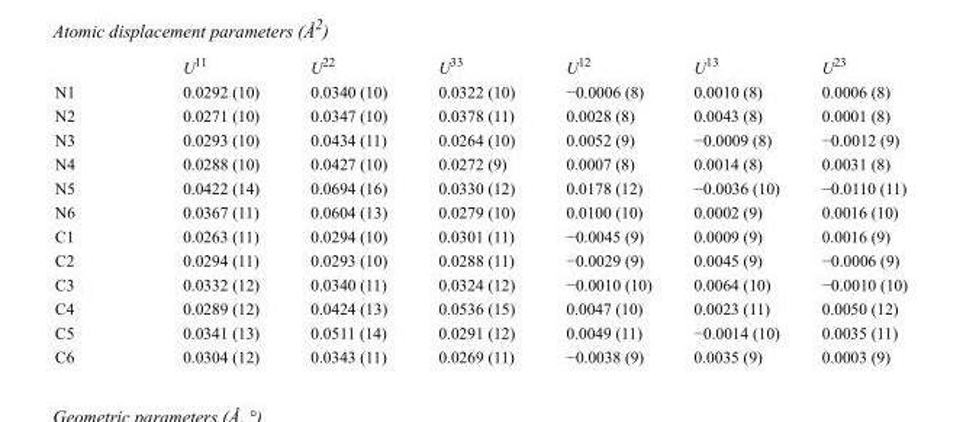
<table><thead><tr><td></td><td>U<sup>11</sup></td><td>U<sup>22</sup></td><td>U<sup>33</sup></td><td>U<sup>12</sup></td><td>U<sup>13</sup></td><td>U<sup>23</sup></td></tr></thead><tbody><tr><td>N1</td><td>0.0292 (10)</td><td>0.0340 (10)</td><td>0.0322 (10)</td><td>−0.0006 (8)</td><td>0.0010 (8)</td><td>0.0006 (8)</td></tr><tr><td>N2</td><td>0.0271 (10)</td><td>0.0347 (10)</td><td>0.0378 (11)</td><td>0.0028 (8)</td><td>0.0043 (8)</td><td>0.0001 (8)</td></tr><tr><td>N3</td><td>0.0293 (10)</td><td>0.0434 (11)</td><td>0.0264 (10)</td><td>0.0052 (9)</td><td>−0.0009 (8)</td><td>−0.0012 (9)</td></tr><tr><td>N4</td><td>0.0288 (10)</td><td>0.0427 (10)</td><td>0.0272 (9)</td><td>0.0007 (8)</td><td>0.0014 (8)</td><td>0.0031 (8)</td></tr><tr><td>N5</td><td>0.0422 (14)</td><td>0.0694 (16)</td><td>0.0330 (12)</td><td>0.0178 (12)</td><td>−0.0036 (10)</td><td>−0.0110 (11)</td></tr><tr><td>N6</td><td>0.0367 (11)</td><td>0.0604 (13)</td><td>0.0279 (10)</td><td>0.0100 (10)</td><td>0.0002 (9)</td><td>0.0016 (10)</td></tr><tr><td>C1</td><td>0.0263 (11)</td><td>0.0294 (10)</td><td>0.0301 (11)</td><td>−0.0045 (9)</td><td>0.0009 (9)</td><td>0.0016 (9)</td></tr><tr><td>C2</td><td>0.0294 (11)</td><td>0.0293 (10)</td><td>0.0288 (11)</td><td>−0.0029 (9)</td><td>0.0045 (9)</td><td>−0.0006 (9)</td></tr><tr><td>C3</td><td>0.0332 (12)</td><td>0.0340 (11)</td><td>0.0324 (12)</td><td>−0.0010 (10)</td><td>0.0064 (10)</td><td>−0.0010 (10)</td></tr><tr><td>C4</td><td>0.0289 (12)</td><td>0.0424 (13)</td><td>0.0536 (15)</td><td>0.0047 (10)</td><td>0.0023 (11)</td><td>0.0050 (12)</td></tr><tr><td>C5</td><td>0.0341 (13)</td><td>0.0511 (14)</td><td>0.0291 (12)</td><td>0.0049 (11)</td><td>−0.0014 (10)</td><td>0.0035 (11)</td></tr><tr><td>C6</td><td>0.0304 (12)</td><td>0.0343 (11)</td><td>0.0269 (11)</td><td>−0.0038 (9)</td><td>0.0035 (9)</td><td>0.0003 (9)</td></tr></tbody></table>